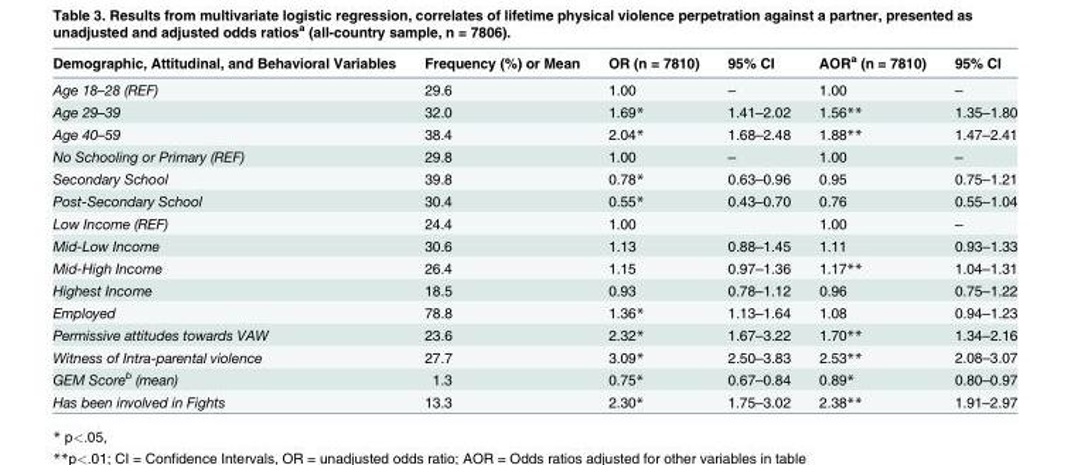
<table><thead><tr><td>Demographic, Attitudinal, and Behavioral Variables</td><td>Frequency (%) or Mean</td><td>OR (n = 7810)</td><td>95% CI</td><td>AOR<sup>a</sup> (n = 7810)</td><td>95% CI</td></tr></thead><tbody><tr><td>Age 18–28 (REF)</td><td>29.6</td><td>1.00</td><td>–</td><td>1.00</td><td>–</td></tr><tr><td>Age 29–39</td><td>32.0</td><td>1.69*</td><td>1.41–2.02</td><td>1.56**</td><td>1.35–1.80</td></tr><tr><td>Age 40–59</td><td>38.4</td><td>2.04*</td><td>1.68–2.48</td><td>1.88**</td><td>1.47–2.41</td></tr><tr><td>No Schooling or Primary (REF)</td><td>29.8</td><td>1.00</td><td>–</td><td>1.00</td><td>–</td></tr><tr><td>Secondary School</td><td>39.8</td><td>0.78*</td><td>0.63–0.96</td><td>0.95</td><td>0.75–1.21</td></tr><tr><td>Post-Secondary School</td><td>30.4</td><td>0.55*</td><td>0.43–0.70</td><td>0.76</td><td>0.55–1.04</td></tr><tr><td>Low Income (REF)</td><td>24.4</td><td>1.00</td><td></td><td>1.00</td><td>–</td></tr><tr><td>Mid-Low Income</td><td>30.6</td><td>1.13</td><td>0.88–1.45</td><td>1.11</td><td>0.93–1.33</td></tr><tr><td>Mid-High Income</td><td>26.4</td><td>1.15</td><td>0.97–1.36</td><td>1.17**</td><td>1.04–1.31</td></tr><tr><td>Highest Income</td><td>18.5</td><td>0.93</td><td>0.78–1.12</td><td>0.96</td><td>0.75–1.22</td></tr><tr><td>Employed</td><td>78.8</td><td>1.36*</td><td>1.13–1.64</td><td>1.08</td><td>0.94–1.23</td></tr><tr><td>Permissive attitudes towards VAW</td><td>23.6</td><td>2.32*</td><td>1.67–3.22</td><td>1.70**</td><td>1.34–2.16</td></tr><tr><td>Witness of Intra-parental violence</td><td>27.7</td><td>3.09*</td><td>2.50–3.83</td><td>2.53**</td><td>2.08–3.07</td></tr><tr><td>GEM Score<sup>b</sup> (mean)</td><td>1.3</td><td>0.75*</td><td>0.67–0.84</td><td>0.89*</td><td>0.80–0.97</td></tr><tr><td>Has been involved in Fights</td><td>13.3</td><td>2.30*</td><td>1.75–3.02</td><td>2.38**</td><td>1.91–2.97</td></tr></tbody></table>